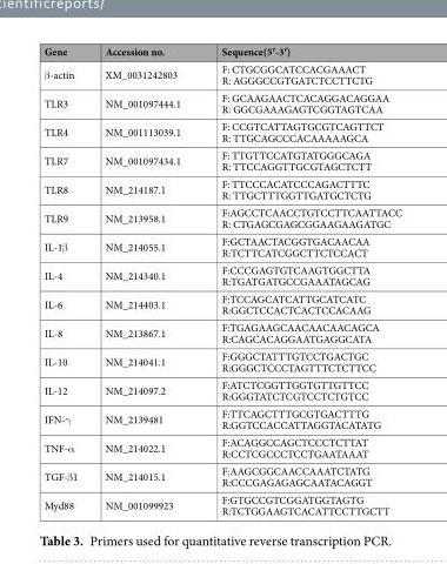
<table><thead><tr><td>Gene</td><td>Accession no.</td><td>Sequence(5′-3′)</td></tr></thead><tbody><tr><td>β-actin</td><td>XM_0031242803</td><td>F: CTGCGGCATCCACGAAACT R: AGGGCCGTGATCTCCTTCTG</td></tr><tr><td>TLR3</td><td>NM_001097444.1</td><td>F: GCAAGAACTCACAGGACAGGAA R: GGCGAAAGAGTCGGTAGTCAA</td></tr><tr><td>TLR4</td><td>NM_001113039.1</td><td>F: CCGTCATTAGTGCGTCAGTTCT R: TTGCAGCCCACAAAAAGCA</td></tr><tr><td>TLR7</td><td>NM_001097434.1</td><td>F: TTGTTCCATGTATGGGCAGA R: TTCCAGGTTGCGTAGCTCTT</td></tr><tr><td>TLR8</td><td>NM_214187.1</td><td>F: TTCCCACATCCCAGACTTTC R: TTGCTTTGGTTGATGCTCTG</td></tr><tr><td>TLR9</td><td>NM_213958.1</td><td>F:AGCCTCAACCTGTCCTTCAATTACC R: CTGAGCGAGCGGAAGAAGATGC</td></tr><tr><td>IL-1β</td><td>NM_214055.1</td><td>F:GCTAACTACGGTGACAACAA R:TCTTCATCGGCTTCTCCACT</td></tr><tr><td>IL-4</td><td>NM_214340.1</td><td>F:CCCGAGTGTCAAGTGGCTTA R:TGATGATGCCGAAATAGCAG</td></tr><tr><td>IL-6</td><td>NM_214403.1</td><td>F:TCCAGCATCATTGCATCATC R:GGCTCCACTCACTCCACAAG</td></tr><tr><td>IL-8</td><td>NM_213867.1</td><td>F:TGAGAAGCAACAACAACAGCA R:CAGCACAGGAATGAGGCATA</td></tr><tr><td>IL-10</td><td>NM_214041.1</td><td>F:GGGCTATTTGTCCTGACTGC R:GGGCTCCCTAGTTTCTCTTCC</td></tr><tr><td>IL-12</td><td>NM_214097.2</td><td>F:ATCTCGGTTGGTGTTGTTCC R:GGGTATCTCGTCCTCTGTCC</td></tr><tr><td>IFN-γ</td><td>NM_2139481</td><td>F:TTCAGCTTTGCGTGACTTTG R:GGTCCACCATTAGGTACATATG</td></tr><tr><td>TNF-α</td><td>NM_214022.1</td><td>F:ACAGGCCAGCTCCCTCTTAT R:CCTCGCCCTCCTGAATAAAT</td></tr><tr><td>TGF-β1</td><td>NM_214015.1</td><td>F:AAGCGGCAACCAAATCTATG R:CCCGAGAGAGCAATACAGGT</td></tr><tr><td>Myd88</td><td>NM_001099923</td><td>F:GTGCCGTCGGATGGTAGTG R:TCTGGAAGTCACATTCCTTGCTT</td></tr></tbody></table>